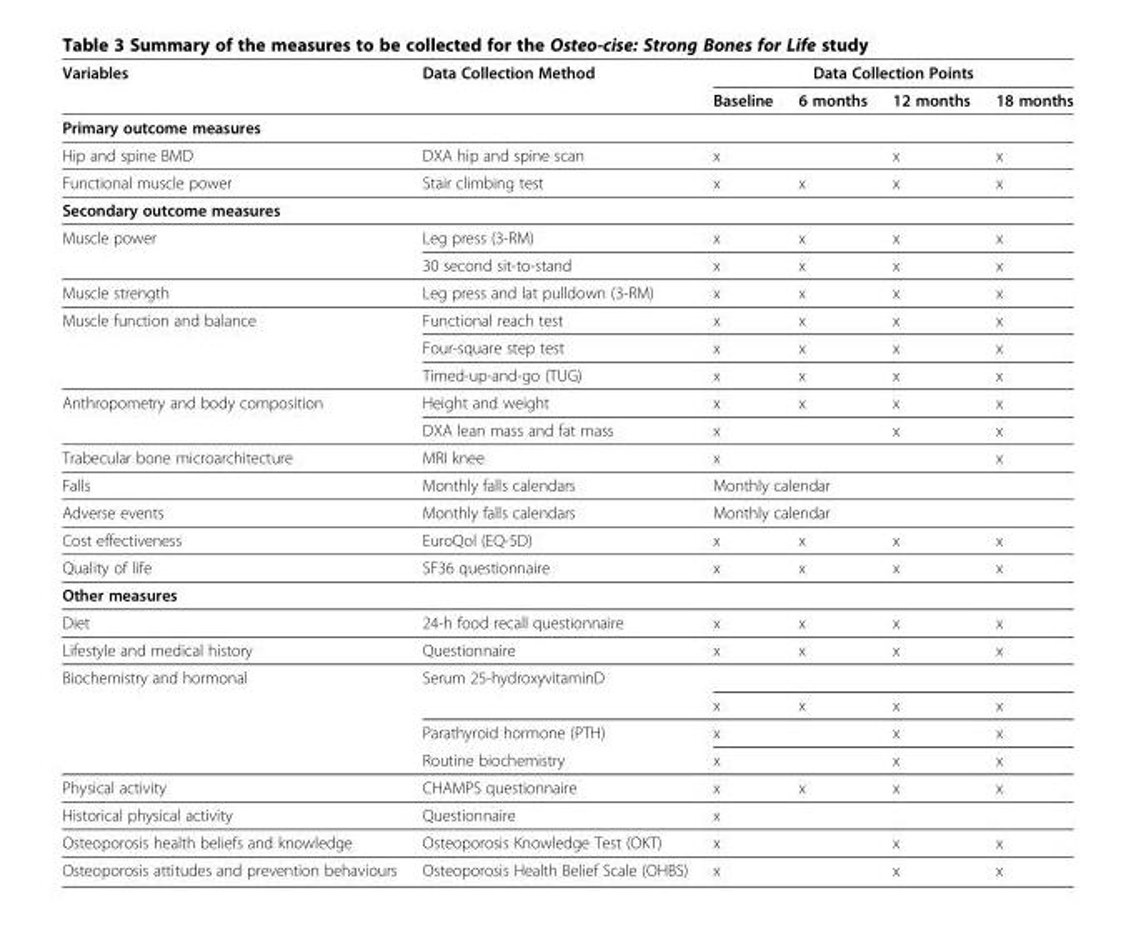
<table><thead><tr><td rowspan="2">Variables</td><td rowspan="2">Data Collection Method</td><td colspan="4">Data Collection Points</td></tr><tr><td>Baseline</td><td>6 months</td><td>12 months</td><td>18 months</td></tr></thead><tbody><tr><td colspan="6">Primary outcome measures</td></tr><tr><td>Hip and spine BMD</td><td>DXA hip and spine scan</td><td>x</td><td></td><td>x</td><td>x</td></tr><tr><td>Functional muscle power</td><td>Stair climbing test</td><td>x</td><td>x</td><td>x</td><td>x</td></tr><tr><td colspan="6">Secondary outcome measures</td></tr><tr><td rowspan="2">Muscle power</td><td>Leg press (3-RM)</td><td>x</td><td>x</td><td>x</td><td>x</td></tr><tr><td>30 second sit-to-stand</td><td>x</td><td>x</td><td>x</td><td>x</td></tr><tr><td>Muscle strength</td><td>Leg press and lat pulldown (3-RM)</td><td>x</td><td>x</td><td>x</td><td>x</td></tr><tr><td rowspan="3">Muscle function and balance</td><td>Functional reach test</td><td>x</td><td>x</td><td>x</td><td>x</td></tr><tr><td>Four-square step test</td><td>x</td><td>x</td><td>x</td><td>x</td></tr><tr><td>Timed-up-and-go (TUG)</td><td>x</td><td>x</td><td>x</td><td>x</td></tr><tr><td rowspan="2">Anthropometry and body composition</td><td>Height and weight</td><td>x</td><td>x</td><td>x</td><td>x</td></tr><tr><td>DXA lean mass and fat mass</td><td>x</td><td></td><td>x</td><td>x</td></tr><tr><td>Trabecular bone microarchitecture</td><td>MRI knee</td><td>x</td><td></td><td></td><td>x</td></tr><tr><td>Falls</td><td>Monthly falls calendars</td><td colspan="4">Monthly calendar</td></tr><tr><td>Adverse events</td><td>Monthly falls calendars</td><td colspan="4">Monthly calendar</td></tr><tr><td>Cost effectiveness</td><td>EuroQol (EQ-5D)</td><td>x</td><td>x</td><td>x</td><td>x</td></tr><tr><td>Quality of life</td><td>SF36 questionnaire</td><td>x</td><td>x</td><td>x</td><td>x</td></tr><tr><td colspan="6">Other measures</td></tr><tr><td>Diet</td><td>24-h food recall questionnaire</td><td>x</td><td>x</td><td>x</td><td>x</td></tr><tr><td>Lifestyle and medical history</td><td>Questionnaire</td><td>x</td><td>x</td><td>x</td><td>x</td></tr><tr><td rowspan="4">Biochemistry and hormonal</td><td>Serum 25-hydroxyvitaminD</td><td></td><td></td><td></td><td></td></tr><tr><td></td><td>x</td><td>x</td><td>x</td><td>x</td></tr><tr><td>Parathyroid hormone (PTH)</td><td>x</td><td></td><td>x</td><td>x</td></tr><tr><td>Routine biochemistry</td><td>x</td><td></td><td>x</td><td>x</td></tr><tr><td>Physical activity</td><td>CHAMPS questionnaire</td><td>x</td><td>x</td><td>x</td><td>x</td></tr><tr><td>Historical physical activity</td><td>Questionnaire</td><td>x</td><td></td><td></td><td></td></tr><tr><td>Osteoporosis health beliefs and knowledge</td><td>Osteoporosis Knowledge Test (OKT)</td><td>x</td><td></td><td>x</td><td>x</td></tr><tr><td>Osteoporosis attitudes and prevention behaviours</td><td>Osteoporosis Health Belief Scale (OHBS)</td><td>x</td><td></td><td>x</td><td>x</td></tr></tbody></table>